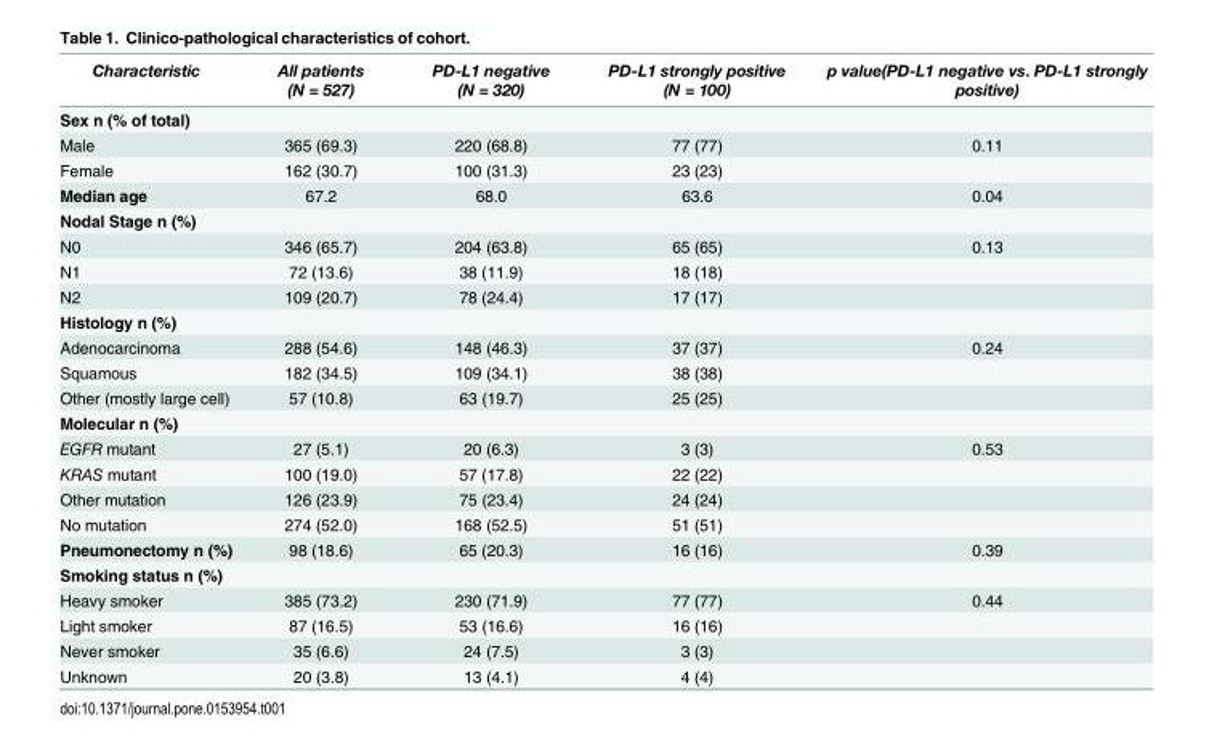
<table><thead><tr><td>Characteristic</td><td>All patients (N = 527)</td><td>PD-L1 negative (N = 320)</td><td>PD-L1 strongly positive (N = 100)</td><td>p value(PD-L1 negative vs. PD-L1 strongly positive)</td></tr></thead><tbody><tr><td colspan="5">Sex n (% of total)</td></tr><tr><td>Male</td><td>365 (69.3)</td><td>220 (68.8)</td><td>77 (77)</td><td>0.11</td></tr><tr><td>Female</td><td>162 (30.7)</td><td>100 (31.3)</td><td>23 (23)</td><td></td></tr><tr><td>Median age</td><td>67.2</td><td>68.0</td><td>63.6</td><td>0.04</td></tr><tr><td colspan="5">Nodal Stage n (%)</td></tr><tr><td>N0</td><td>346 (65.7)</td><td>204 (63.8)</td><td>65 (65)</td><td>0.13</td></tr><tr><td>N1</td><td>72 (13.6)</td><td>38 (11.9)</td><td>18 (18)</td><td></td></tr><tr><td>N2</td><td>109 (20.7)</td><td>78 (24.4)</td><td>17 (17)</td><td></td></tr><tr><td colspan="5">Histology n (%)</td></tr><tr><td>Adenocarcinoma</td><td>288 (54.6)</td><td>148 (46.3)</td><td>37 (37)</td><td>0.24</td></tr><tr><td>Squamous</td><td>182 (34.5)</td><td>109 (34.1)</td><td>38 (38)</td><td></td></tr><tr><td>Other (mostly large cell)</td><td>57 (10.8)</td><td>63 (19.7)</td><td>25 (25)</td><td></td></tr><tr><td colspan="5">Molecular n (%)</td></tr><tr><td>EGFR mutant</td><td>27 (5.1)</td><td>20 (6.3)</td><td>3 (3)</td><td>0.53</td></tr><tr><td>KRAS mutant</td><td>100 (19.0)</td><td>57 (17.8)</td><td>22 (22)</td><td></td></tr><tr><td>Other mutation</td><td>126 (23.9)</td><td>75 (23.4)</td><td>24 (24)</td><td></td></tr><tr><td>No mutation</td><td>274 (52.0)</td><td>168 (52.5)</td><td>51 (51)</td><td></td></tr><tr><td>Pneumonectomy n (%)</td><td>98 (18.6)</td><td>65 (20.3)</td><td>16 (16)</td><td>0.39</td></tr><tr><td colspan="5">Smoking status n (%)</td></tr><tr><td>Heavy smoker</td><td>385 (73.2)</td><td>230 (71.9)</td><td>77 (77)</td><td>0.44</td></tr><tr><td>Light smoker</td><td>87 (16.5)</td><td>53 (16.6)</td><td>16 (16)</td><td></td></tr><tr><td>Never smoker</td><td>35 (6.6)</td><td>24 (7.5)</td><td>3 (3)</td><td></td></tr><tr><td>Unknown</td><td>20 (3.8)</td><td>13 (4.1)</td><td>4 (4)</td><td></td></tr></tbody></table>